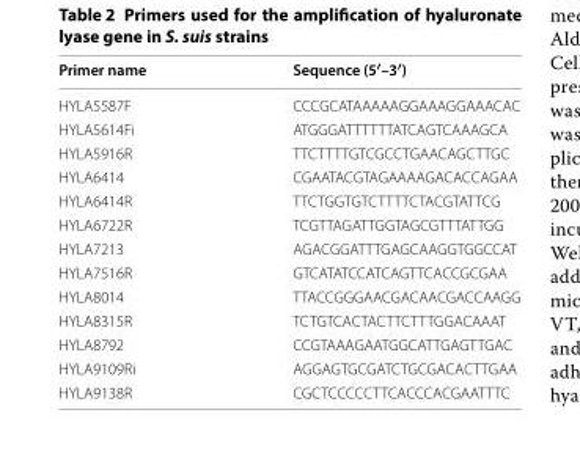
<table><thead><tr><td>Primer name</td><td>Sequence (5′–3′)</td></tr></thead><tbody><tr><td>HYLA5587F</td><td>CCCGCATAAAAAGGAAAGGAAACAC</td></tr><tr><td>HYLA5614Fi</td><td>ATGGGATTTTTTATCAGTCAAAGCA</td></tr><tr><td>HYLA5916R</td><td>TTCTTTTGTCGCCTGAACAGCTTGC</td></tr><tr><td>HYLA6414</td><td>CGAATACGTAGAAAAGACACCAGAA</td></tr><tr><td>HYLA6414R</td><td>TTCTGGTGTCTTTTCTACGTATTCG</td></tr><tr><td>HYLA6722R</td><td>TCGTTAGATTGGTAGCGTTTATTGG</td></tr><tr><td>HYLA7213</td><td>AGACGGATTTGAGCAAGGTGGCCAT</td></tr><tr><td>HYLA7516R</td><td>GTCATATCCATCAGTTCACCGCGAA</td></tr><tr><td>HYLA8014</td><td>TTACCGGGAACGACAACGACCAAGG</td></tr><tr><td>HYLA8315R</td><td>TCTGTCACTACTTCTTTGGACAAAT</td></tr><tr><td>HYLA8792</td><td>CCGTAAAGAATGGCATTGAGTTGAC</td></tr><tr><td>HYLA9109Ri</td><td>AGGAGTGCGATCTGCGACACTTGAA</td></tr><tr><td>HYLA9138R</td><td>CGCTCCCCCTTCACCCACGAATTTC</td></tr></tbody></table>